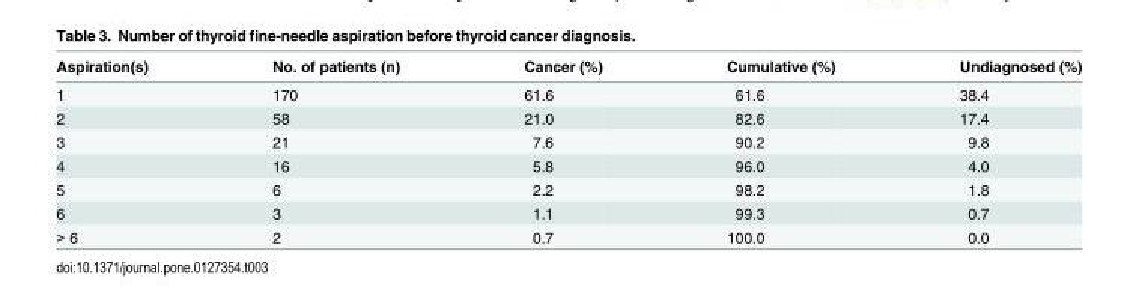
<table><thead><tr><td>Aspiration(s)</td><td>No. of patients (n)</td><td>Cancer (%)</td><td>Cumulative (%)</td><td>Undiagnosed (%)</td></tr></thead><tbody><tr><td>1</td><td>170</td><td>61.6</td><td>61.6</td><td>38.4</td></tr><tr><td>2</td><td>58</td><td>21.0</td><td>82.6</td><td>17.4</td></tr><tr><td>3</td><td>21</td><td>7.6</td><td>90.2</td><td>9.8</td></tr><tr><td>4</td><td>16</td><td>5.8</td><td>96.0</td><td>4.0</td></tr><tr><td>5</td><td>6</td><td>2.2</td><td>98.2</td><td>1.8</td></tr><tr><td>6</td><td>3</td><td>1.1</td><td>99.3</td><td>0.7</td></tr><tr><td>&gt; 6</td><td>2</td><td>0.7</td><td>100.0</td><td>0.0</td></tr></tbody></table>